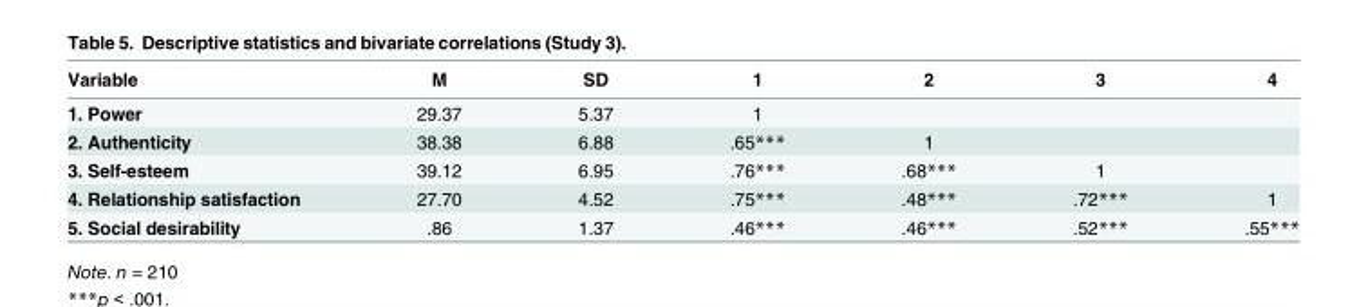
<table><thead><tr><td>Variable</td><td>M</td><td>SD</td><td>1</td><td>2</td><td>3</td><td>4</td></tr></thead><tbody><tr><td>1. Power</td><td>29.37</td><td>5.37</td><td>1</td><td></td><td></td><td></td></tr><tr><td>2. Authenticity</td><td>38.38</td><td>6.88</td><td>.65***</td><td>1</td><td></td><td></td></tr><tr><td>3. Self-esteem</td><td>39.12</td><td>6.95</td><td>.76***</td><td>.68***</td><td>1</td><td></td></tr><tr><td>4. Relationship satisfaction</td><td>27.70</td><td>4.52</td><td>.75***</td><td>.48***</td><td>.72***</td><td>1</td></tr><tr><td>5. Social desirability</td><td>.86</td><td>1.37</td><td>.46***</td><td>.46***</td><td>.52***</td><td>.55***</td></tr></tbody></table>